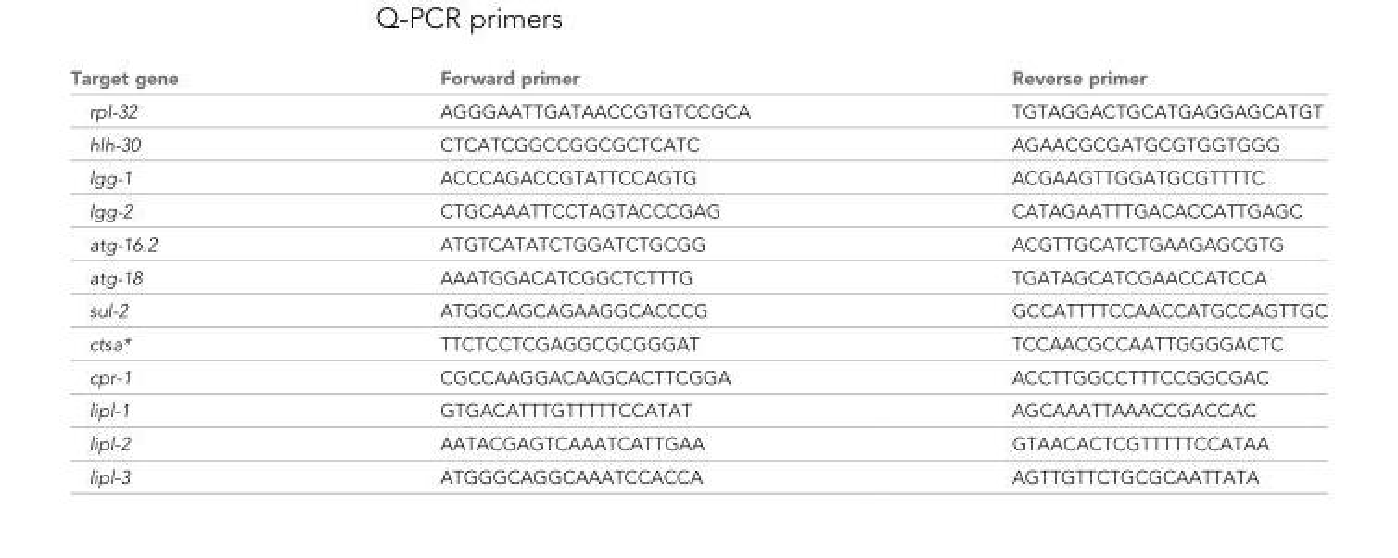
<table><thead><tr><td>Target gene</td><td>Forward primer</td><td>Reverse primer</td></tr></thead><tbody><tr><td>rpl-32</td><td>AGGGAATTGATAACCGTGTCCGCA</td><td>TGTAGGACTGCATGAGGAGCATGT</td></tr><tr><td>hlh-30</td><td>CTCATCGGCCGGCGCTCATC</td><td>AGAACGCGATGCGTGGTGGG</td></tr><tr><td>lgg-1</td><td>ACCCAGACCGTATTCCAGTG</td><td>ACGAAGTTGGATGCGTTTTC</td></tr><tr><td>lgg-2</td><td>CTGCAAATTCCTAGTACCCGAG</td><td>CATAGAATTTGACACCATTGAGC</td></tr><tr><td>atg-16.2</td><td>ATGTCATATCTGGATCTGCGG</td><td>ACGTTGCATCTGAAGAGCGTG</td></tr><tr><td>atg-18</td><td>AAATGGACATCGGCTCTTTG</td><td>TGATAGCATCGAACCATCCA</td></tr><tr><td>sul-2</td><td>ATGGCAGCAGAAGGCACCCG</td><td>GCCATTTTCCAACCATGCCAGTTGC</td></tr><tr><td>ctsa*</td><td>TTCTCCTCGAGGCGCGGGAT</td><td>TCCAACGCCAATTGGGGACTC</td></tr><tr><td>cpr-1</td><td>CGCCAAGGACAAGCACTTCGGA</td><td>ACCTTGGCCTTTCCGGCGAC</td></tr><tr><td>lipl-1</td><td>GTGACATTTGTTTTTCCATAT</td><td>AGCAAATTAAACCGACCAC</td></tr><tr><td>lipl-2</td><td>AATACGAGTCAAATCATTGAA</td><td>GTAACACTCGTTTTTCCATAA</td></tr><tr><td>lipl-3</td><td>ATGGGCAGGCAAATCCACCA</td><td>AGTTGTTCTGCGCAATTATA</td></tr></tbody></table>